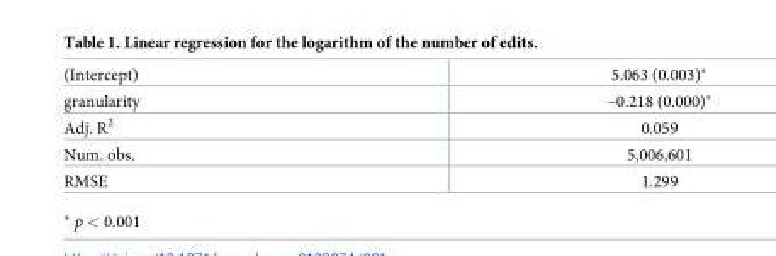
<table><tbody><tr><td>(Intercept)</td><td>5.063 (0.003)*</td></tr><tr><td>granularity</td><td>−0.218 (0.000)*</td></tr><tr><td>Adj. R<sup>2</sup></td><td>0.059</td></tr><tr><td>Num. obs.</td><td>5,006,601</td></tr><tr><td>RMSE</td><td>1.299</td></tr></tbody></table>